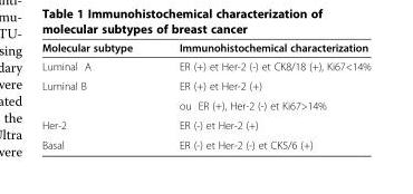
<table><thead><tr><td>Molecular subtype</td><td>Immunohistochemical characterization</td></tr></thead><tbody><tr><td>Luminal A</td><td>ER (+) et Her-2 (-) et CK8/18 (+), Ki67&lt;14%</td></tr><tr><td rowspan="2">Luminal B</td><td>ER (+) et Her-2 (+)</td></tr><tr><td>ou ER (+), Her-2 (-) et Ki67&gt;14%</td></tr><tr><td>Her-2</td><td>ER (-) et Her-2 (+)</td></tr><tr><td>Basal</td><td>ER (-) et Her-2 (-) et CK5/6 (+)</td></tr></tbody></table>